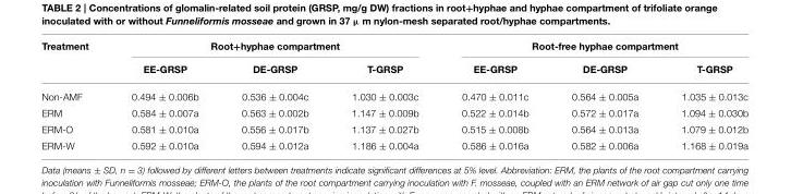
<table><thead><tr><td rowspan="2">Treatment</td><td colspan="3">Root+hyphae compartment</td><td colspan="3">Root-free hyphae compartment</td></tr><tr><td>EE-GRSP</td><td>DE-GRSP</td><td>T-GRSP</td><td>EE-GRSP</td><td>DE-GRSP</td><td>T-GRSP</td></tr></thead><tbody><tr><td>Non-AMF</td><td>0.494 ± 0.006b</td><td>0.536 ± 0.004c</td><td>1.030 ± 0.003c</td><td>0.470 ± 0.011c</td><td>0.564 ± 0.005a</td><td>1.035 ± 0.013c</td></tr><tr><td>ERM</td><td>0.584 ± 0.007a</td><td>0.563 ± 0.002b</td><td>1.147 ± 0.009b</td><td>0.522 ± 0.014b</td><td>0.572 ± 0.017a</td><td>1.094 ± 0.030b</td></tr><tr><td>ERM-O</td><td>0.581 ± 0.010a</td><td>0.556 ± 0.017b</td><td>1.137 ± 0.027b</td><td>0.515 ± 0.008b</td><td>0.564 ± 0.013a</td><td>1.079 ± 0.012b</td></tr><tr><td>ERM-W</td><td>0.592 ± 0.010a</td><td>0.594 ± 0.012a</td><td>1.186 ± 0.004a</td><td>0.586 ± 0.016a</td><td>0.582 ± 0.006a</td><td>1.168 ± 0.019a</td></tr></tbody></table>